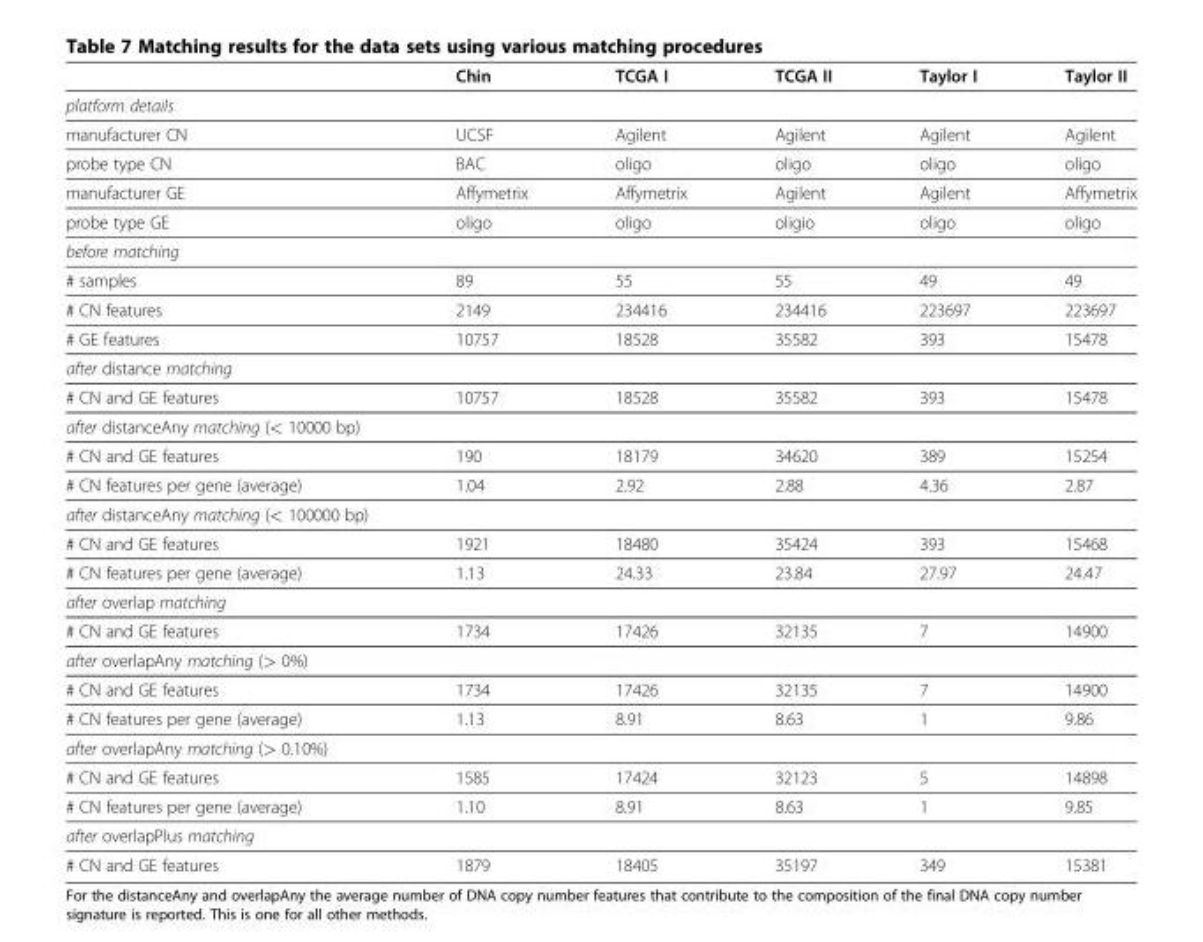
<table><thead><tr><td></td><td>Chin</td><td>TCGA I</td><td>TCGA II</td><td>Taylor I</td><td>Taylor II</td></tr></thead><tbody><tr><td colspan="6">platform details</td></tr><tr><td>manufacturer CN</td><td>UCSF</td><td>Agilent</td><td>Agilent</td><td>Agilent</td><td>Agilent</td></tr><tr><td>probe type CN</td><td>BAC</td><td>oligo</td><td>oligo</td><td>oligo</td><td>oligo</td></tr><tr><td>manufacturer GE</td><td>Affymetrix</td><td>Affymetrix</td><td>Agilent</td><td>Agilent</td><td>Affymetrix</td></tr><tr><td>probe type GE</td><td>oligo</td><td>oligo</td><td>oligio</td><td>oligo</td><td>oligo</td></tr><tr><td colspan="6">before matching</td></tr><tr><td># samples</td><td>89</td><td>55</td><td>55</td><td>49</td><td>49</td></tr><tr><td># CN features</td><td>2149</td><td>234416</td><td>234416</td><td>223697</td><td>223697</td></tr><tr><td># GE features</td><td>10757</td><td>18528</td><td>35582</td><td>393</td><td>15478</td></tr><tr><td colspan="6">after distance matching</td></tr><tr><td># CN and GE features</td><td>10757</td><td>18528</td><td>35582</td><td>393</td><td>15478</td></tr><tr><td colspan="6">after distanceAny matching (&lt; 10000 bp)</td></tr><tr><td># CN and GE features</td><td>190</td><td>18179</td><td>34620</td><td>389</td><td>15254</td></tr><tr><td># CN features per gene (average)</td><td>1.04</td><td>2.92</td><td>2.88</td><td>4.36</td><td>2.87</td></tr><tr><td colspan="6">after distanceAny matching (&lt; 100000 bp)</td></tr><tr><td># CN and GE features</td><td>1921</td><td>18480</td><td>35424</td><td>393</td><td>15468</td></tr><tr><td># CN features per gene (average)</td><td>1.13</td><td>24.33</td><td>23.84</td><td>27.97</td><td>24.47</td></tr><tr><td colspan="6">after overlap matching</td></tr><tr><td># CN and GE features</td><td>1734</td><td>17426</td><td>32135</td><td>7</td><td>14900</td></tr><tr><td colspan="6">after overlapAny matching (&gt; 0%)</td></tr><tr><td># CN and GE features</td><td>1734</td><td>17426</td><td>32135</td><td>7</td><td>14900</td></tr><tr><td># CN features per gene (average)</td><td>1.13</td><td>8.91</td><td>8.63</td><td>1</td><td>9.86</td></tr><tr><td colspan="6">after overlapAny matching (&gt; 0.10%)</td></tr><tr><td># CN and GE features</td><td>1585</td><td>17424</td><td>32123</td><td>5</td><td>14898</td></tr><tr><td># CN features per gene (average)</td><td>1.10</td><td>8.91</td><td>8.63</td><td>1</td><td>9.85</td></tr><tr><td colspan="6">after overlapPlus matching</td></tr><tr><td># CN and GE features</td><td>1879</td><td>18405</td><td>35197</td><td>349</td><td>15381</td></tr></tbody></table>